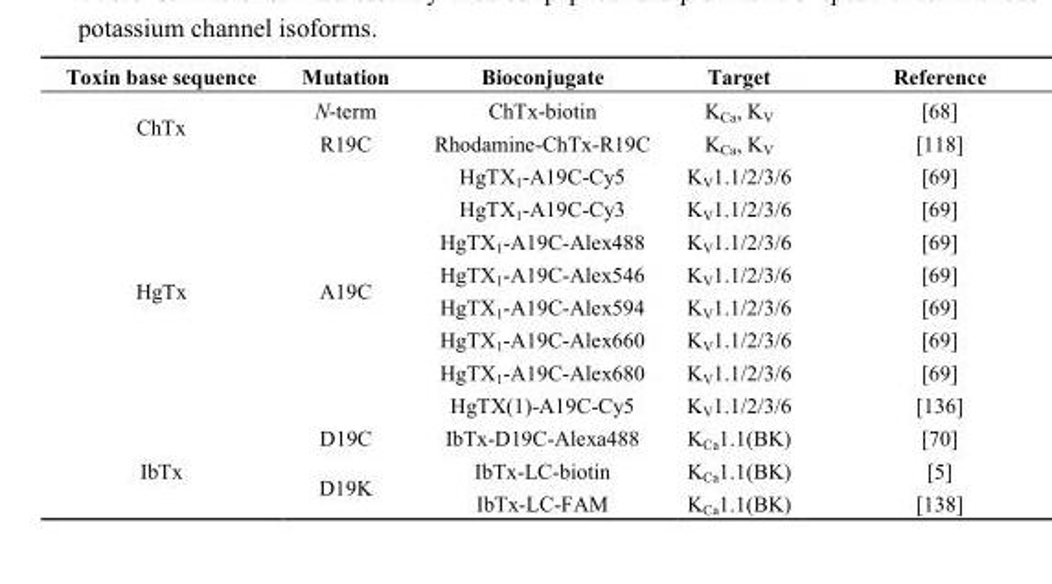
<table><thead><tr><td>Toxin base sequence</td><td>Mutation</td><td>Bioconjugate</td><td>Target</td><td>Reference</td></tr></thead><tbody><tr><td rowspan="2">ChTx</td><td>N-term</td><td>ChTx-biotin</td><td>K<sub>Ca</sub>, K<sub>V</sub></td><td>[68]</td></tr><tr><td>R19C</td><td>Rhodamine-ChTx-R19C</td><td>K<sub>Ca</sub>, K<sub>V</sub></td><td>[118]</td></tr><tr><td rowspan="8">HgTx</td><td rowspan="8">A19C</td><td>HgTX<sub>1</sub>-A19C-Cy5</td><td>K<sub>V</sub>1.1/2/3/6</td><td>[69]</td></tr><tr><td>HgTX<sub>1</sub>-A19C-Cy3</td><td>K<sub>V</sub>1.1/2/3/6</td><td>[69]</td></tr><tr><td>HgTX<sub>1</sub>-A19C-Alex488</td><td>K<sub>V</sub>1.1/2/3/6</td><td>[69]</td></tr><tr><td>HgTX<sub>1</sub>-A19C-Alex546</td><td>K<sub>V</sub>1.1/2/3/6</td><td>[69]</td></tr><tr><td>HgTX<sub>1</sub>-A19C-Alex594</td><td>K<sub>V</sub>1.1/2/3/6</td><td>[69]</td></tr><tr><td>HgTX<sub>1</sub>-A19C-Alex660</td><td>K<sub>V</sub>1.1/2/3/6</td><td>[69]</td></tr><tr><td>HgTX<sub>1</sub>-A19C-Alex680</td><td>K<sub>V</sub>1.1/2/3/6</td><td>[69]</td></tr><tr><td>HgTX(1)-A19C-Cy5</td><td>K<sub>V</sub>1.1/2/3/6</td><td>[136]</td></tr><tr><td rowspan="3">IbTx</td><td>D19C</td><td>IbTx-D19C-Alexa488</td><td>K<sub>Ca</sub>1.1(BK)</td><td>[70]</td></tr><tr><td rowspan="2">D19K</td><td>IbTx-LC-biotin</td><td>K<sub>Ca</sub>1.1(BK)</td><td>[5]</td></tr><tr><td>IbTx-LC-FAM</td><td>K<sub>Ca</sub>1.1(BK)</td><td>[138]</td></tr></tbody></table>